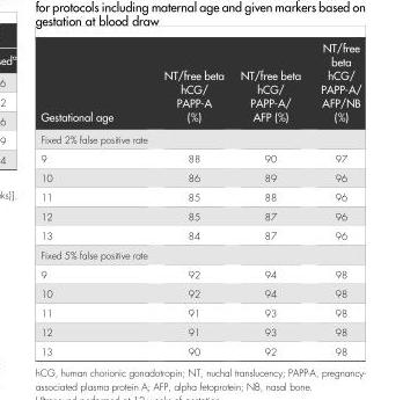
<table><thead><tr><td>Gestational age</td><td>NT/free beta hCG/ PAPP-A (%)</td><td>NT/free beta hCG/ PAPP-A/ AFP (%)</td><td>NT/free beta hCG/ PAPP-A/ AFP/NB (%)</td></tr></thead><tbody><tr><td colspan="4">Fixed 2% false positive rate</td></tr><tr><td>9</td><td>88</td><td>90</td><td>97</td></tr><tr><td>10</td><td>86</td><td>89</td><td>96</td></tr><tr><td>11</td><td>85</td><td>88</td><td>96</td></tr><tr><td>12</td><td>85</td><td>87</td><td>96</td></tr><tr><td>13</td><td>84</td><td>87</td><td>96</td></tr><tr><td colspan="4">Fixed 5% false positive rate</td></tr><tr><td>9</td><td>92</td><td>94</td><td>98</td></tr><tr><td>10</td><td>92</td><td>94</td><td>98</td></tr><tr><td>11</td><td>91</td><td>93</td><td>98</td></tr><tr><td>12</td><td>91</td><td>93</td><td>98</td></tr><tr><td>13</td><td>90</td><td>92</td><td>98</td></tr></tbody></table>